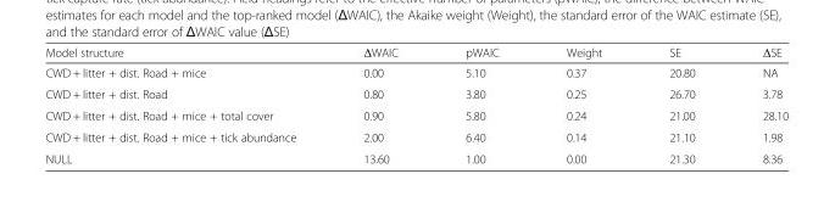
<table><thead><tr><td>Model structure</td><td>ΔWAIC</td><td>pWAIC</td><td>Weight</td><td>SE</td><td>ΔSE</td></tr></thead><tbody><tr><td>CWD + litter + dist. Road + mice</td><td>0.00</td><td>5.10</td><td>0.37</td><td>20.80</td><td>NA</td></tr><tr><td>CWD + litter + dist. Road</td><td>0.80</td><td>3.80</td><td>0.25</td><td>26.70</td><td>3.78</td></tr><tr><td>CWD + litter + dist. Road + mice + total cover</td><td>0.90</td><td>5.80</td><td>0.24</td><td>21.00</td><td>28.10</td></tr><tr><td>CWD + litter + dist. Road + mice + tick abundance</td><td>2.00</td><td>6.40</td><td>0.14</td><td>21.10</td><td>1.98</td></tr><tr><td>NULL</td><td>13.60</td><td>1.00</td><td>0.00</td><td>21.30</td><td>8.36</td></tr></tbody></table>